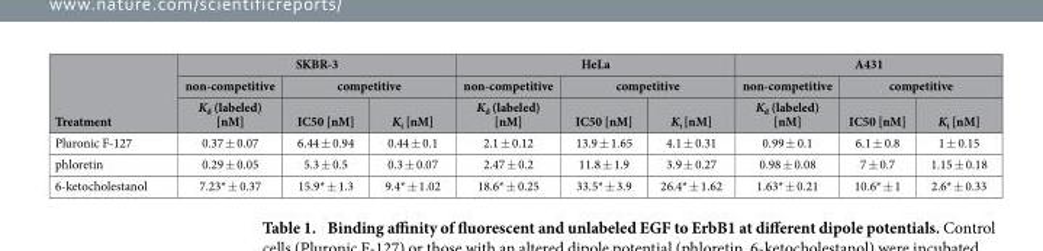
<table><thead><tr><td rowspan="3">Treatment</td><td colspan="3">SKBR-3</td><td colspan="3">HeLa</td><td colspan="3">A431</td></tr><tr><td rowspan="2">non-competitive K<sub>d</sub> (labeled) [nM]</td><td colspan="2">competitive</td><td rowspan="2">non-competitive K<sub>d</sub> (labeled) [nM]</td><td colspan="2">competitive</td><td rowspan="2">non-competitive K<sub>d</sub> (labeled) [nM]</td><td colspan="2">competitive</td></tr><tr><td>IC50 [nM]</td><td>Ki [nM]</td><td>IC50 [nM]</td><td>Ki [nM]</td><td>IC50 [nM]</td><td>K<sub>i</sub> [nM]</td></tr></thead><tbody><tr><td>Pluronic F-127</td><td>0.37 ± 0.07</td><td>6.44 ± 0.94</td><td>0.44 ± 0.1</td><td>2.1 ± 0.12</td><td>13.9 ± 1.65</td><td>4.1 ± 0.31</td><td>0.99 ± 0.1</td><td>6.1 ± 0.8</td><td>1 ± 0.15</td></tr><tr><td>phloretin</td><td>0.29 ± 0.05</td><td>5.3 ± 0.5</td><td>0.3 ± 0.07</td><td>2.47 ± 0.2</td><td>11.8 ± 1.9</td><td>3.9 ± 0.27</td><td>0.98 ± 0.08</td><td>7 ± 0.7</td><td>1.15 ± 0.18</td></tr><tr><td>6-ketocholestanol</td><td>7.23* ± 0.37</td><td>15.9* ± 1.3</td><td>9.4* ± 1.02</td><td>18.6* ± 0.25</td><td>33.5* ± 3.9</td><td>26.4* ± 1.62</td><td>1.63* ± 0.21</td><td>10.6* ± 1</td><td>2.6* ± 0.33</td></tr></tbody></table>